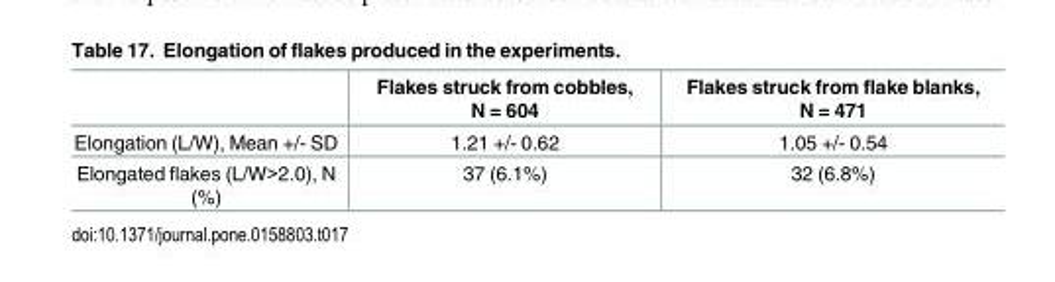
<table><thead><tr><td></td><td>Flakes struck from cobbles, N = 604</td><td>Flakes struck from flake blanks, N = 471</td></tr></thead><tbody><tr><td>Elongation (L/W), Mean +/- SD</td><td>1.21 +/- 0.62</td><td>1.05 +/- 0.54</td></tr><tr><td>Elongated flakes (L/W&gt;2.0), N (%)</td><td>37 (6.1%)</td><td>32 (6.8%)</td></tr></tbody></table>